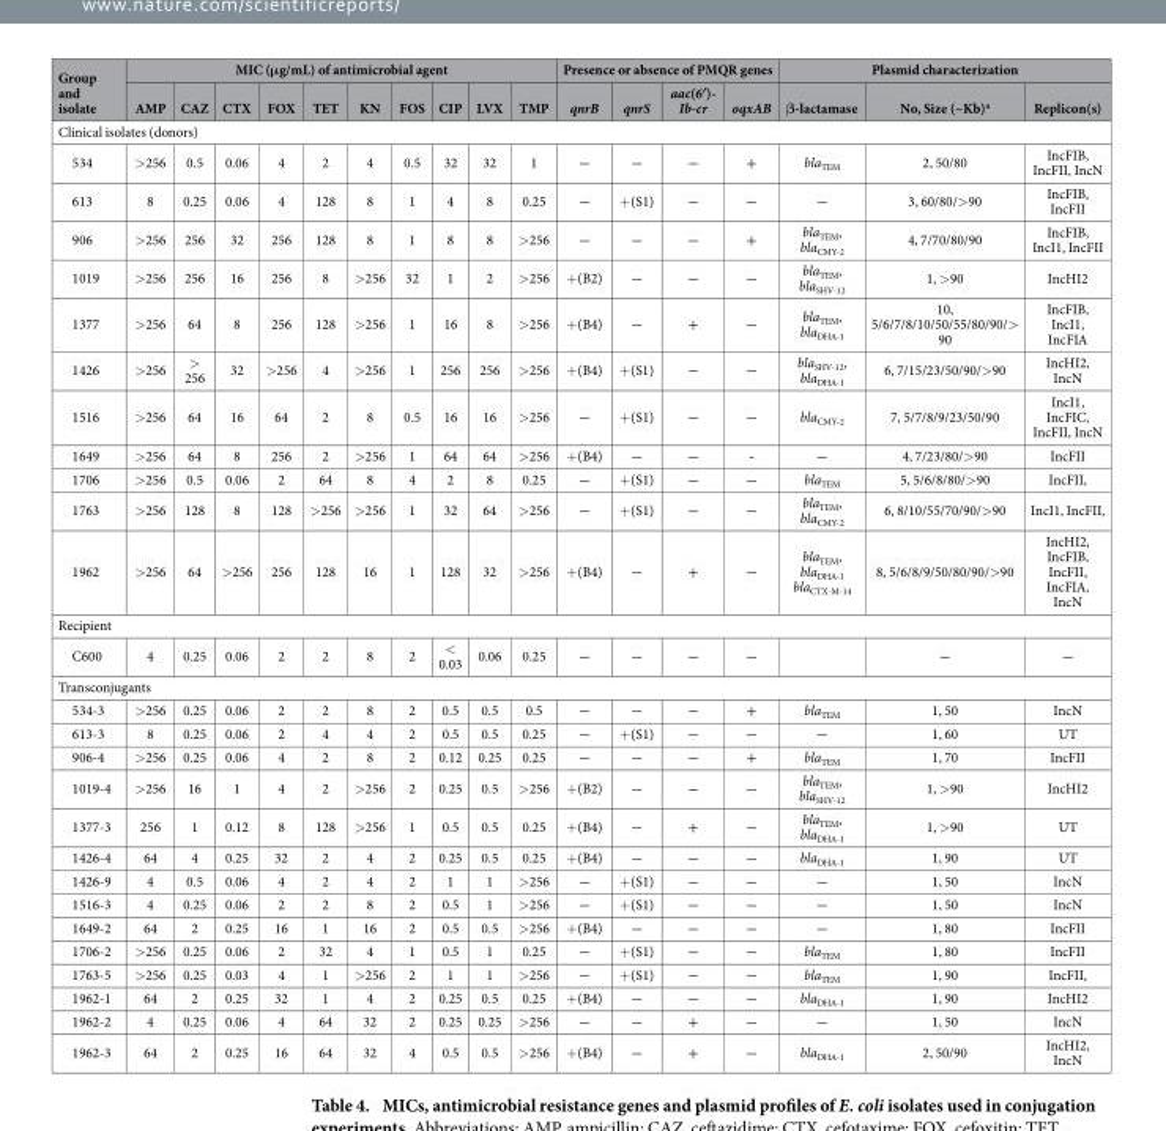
<table><thead><tr><td rowspan="2">Group and isolate</td><td colspan="10">MIC (μg/mL) of antimicrobial agent</td><td colspan="4">Presence or absence of PMQR genes</td><td colspan="3">Plasmid characterization</td></tr><tr><td>AMP</td><td>CAZ</td><td>CTX</td><td>FOX</td><td>TET</td><td>KN</td><td>FOS</td><td>CIP</td><td>LVX</td><td>TMP</td><td>qnrB</td><td>qnrS</td><td>aac(6′)- Ib-cr</td><td>oqxAB</td><td>β-lactamase</td><td>No, Size (~Kb)<sup>a</sup></td><td>Replicon(s)</td></tr></thead><tbody><tr><td colspan="18">Clinical isolates (donors)</td></tr><tr><td>534</td><td>&gt; 256</td><td>0.5</td><td>0.06</td><td>4</td><td>2</td><td>4</td><td>0.5</td><td>32</td><td>32</td><td>1</td><td>−</td><td>−</td><td>−</td><td>+</td><td>bla<sub>TEM</sub></td><td>2, 50/80</td><td>IncFIB, IncFII, IncN</td></tr><tr><td>613</td><td>8</td><td>0.25</td><td>0.06</td><td>4</td><td>128</td><td>8</td><td>1</td><td>4</td><td>8</td><td>0.25</td><td>−</td><td>+(S1)</td><td>−</td><td>−</td><td>−</td><td>3, 60/80/&gt; 90</td><td>IncFIB, IncFII</td></tr><tr><td>906</td><td>&gt; 256</td><td>256</td><td>32</td><td>256</td><td>128</td><td>8</td><td>1</td><td>8</td><td>8</td><td>&gt; 256</td><td>−</td><td>−</td><td>−</td><td>+</td><td>bla<sub>TEM</sub>, bla<sub>CMY-2</sub></td><td>4, 7/70/80/90</td><td>IncFIB, IncI1, IncFII</td></tr><tr><td>1019</td><td>&gt; 256</td><td>256</td><td>16</td><td>256</td><td>8</td><td>&gt; 256</td><td>32</td><td>1</td><td>2</td><td>&gt; 256</td><td>+(B2)</td><td>−</td><td>−</td><td>−</td><td>bla<sub>TEM</sub>, bla<sub>SHV-12</sub></td><td>1, &gt; 90</td><td>IncHI2</td></tr><tr><td>1377</td><td>&gt; 256</td><td>64</td><td>8</td><td>256</td><td>128</td><td>&gt; 256</td><td>1</td><td>16</td><td>8</td><td>&gt; 256</td><td>+(B4)</td><td>−</td><td>+</td><td>−</td><td>bla<sub>TEM</sub>, bla<sub>DHA-1</sub></td><td>10, 5/6/7/8/10/50/55/80/90/&gt; 90</td><td>IncFIB, IncI1, IncFIA</td></tr><tr><td>1426</td><td>&gt; 256</td><td>&gt; 256</td><td>32</td><td>&gt; 256</td><td>4</td><td>&gt; 256</td><td>1</td><td>256</td><td>256</td><td>&gt; 256</td><td>+(B4)</td><td>+(S1)</td><td>−</td><td>−</td><td>bla<sub>SHV-12</sub>, bla<sub>DHA-1</sub></td><td>6, 7/15/23/50/90/&gt; 90</td><td>IncHI2, IncN</td></tr><tr><td>1516</td><td>&gt; 256</td><td>64</td><td>16</td><td>64</td><td>2</td><td>8</td><td>0.5</td><td>16</td><td>16</td><td>&gt; 256</td><td>−</td><td>+(S1)</td><td>−</td><td>−</td><td>bla<sub>CMY-2</sub></td><td>7, 5/7/8/9/23/50/90</td><td>IncI1, IncFIC, IncFII, IncN</td></tr><tr><td>1649</td><td>&gt; 256</td><td>64</td><td>8</td><td>256</td><td>2</td><td>&gt; 256</td><td>1</td><td>64</td><td>64</td><td>&gt; 256</td><td>+(B4)</td><td>−</td><td>−</td><td>-</td><td>−</td><td>4, 7/23/80/&gt; 90</td><td>IncFII</td></tr><tr><td>1706</td><td>&gt; 256</td><td>0.5</td><td>0.06</td><td>2</td><td>64</td><td>8</td><td>4</td><td>2</td><td>8</td><td>0.25</td><td>−</td><td>+(S1)</td><td>−</td><td>−</td><td>bla<sub>TEM</sub></td><td>5, 5/6/8/80/&gt; 90</td><td>IncFII,</td></tr><tr><td>1763</td><td>&gt; 256</td><td>128</td><td>8</td><td>128</td><td>&gt; 256</td><td>&gt; 256</td><td>1</td><td>32</td><td>64</td><td>&gt; 256</td><td>−</td><td>+(S1)</td><td>−</td><td>−</td><td>bla<sub>TEM</sub>, bla<sub>CMY-2</sub></td><td>6, 8/10/55/70/90/&gt; 90</td><td>IncI1, IncFII,</td></tr><tr><td>1962</td><td>&gt; 256</td><td>64</td><td>&gt; 256</td><td>256</td><td>128</td><td>16</td><td>1</td><td>128</td><td>32</td><td>&gt; 256</td><td>+(B4)</td><td>−</td><td>+</td><td>−</td><td>bla<sub>TEM</sub>, bla<sub>DHA-1</sub> bla<sub>CTX-M-14</sub></td><td>8, 5/6/8/9/50/80/90/&gt; 90</td><td>IncHI2, IncFIB, IncFII, IncFIA, IncN</td></tr><tr><td colspan="18">Recipient</td></tr><tr><td>C600</td><td>4</td><td>0.25</td><td>0.06</td><td>2</td><td>2</td><td>8</td><td>2</td><td>&lt; 0.03</td><td>0.06</td><td>0.25</td><td>−</td><td>−</td><td>−</td><td>−</td><td></td><td>−</td><td>−</td></tr><tr><td colspan="18">Transconjugants</td></tr><tr><td>534-3</td><td>&gt; 256</td><td>0.25</td><td>0.06</td><td>2</td><td>2</td><td>8</td><td>2</td><td>0.5</td><td>0.5</td><td>0.5</td><td>−</td><td>−</td><td>−</td><td>+</td><td>bla<sub>TEM</sub></td><td>1, 50</td><td>IncN</td></tr><tr><td>613-3</td><td>8</td><td>0.25</td><td>0.06</td><td>2</td><td>4</td><td>4</td><td>2</td><td>0.5</td><td>0.5</td><td>0.25</td><td>−</td><td>+(S1)</td><td>−</td><td>−</td><td>−</td><td>1, 60</td><td>UT</td></tr><tr><td>906-4</td><td>&gt; 256</td><td>0.25</td><td>0.06</td><td>4</td><td>2</td><td>8</td><td>2</td><td>0.12</td><td>0.25</td><td>0.25</td><td>−</td><td>−</td><td>−</td><td>+</td><td>bla<sub>TEM</sub></td><td>1, 70</td><td>IncFII</td></tr><tr><td>1019-4</td><td>&gt; 256</td><td>16</td><td>1</td><td>4</td><td>2</td><td>&gt; 256</td><td>2</td><td>0.25</td><td>0.5</td><td>&gt; 256</td><td>+(B2)</td><td>−</td><td>−</td><td>−</td><td>bla<sub>TEM</sub>, bla<sub>SHV-12</sub></td><td>1, &gt; 90</td><td>IncHI2</td></tr><tr><td>1377-3</td><td>256</td><td>1</td><td>0.12</td><td>8</td><td>128</td><td>&gt; 256</td><td>1</td><td>0.5</td><td>0.5</td><td>0.25</td><td>+(B4)</td><td>−</td><td>+</td><td>−</td><td>bla<sub>TEM</sub>, bla<sub>DHA-1</sub></td><td>1, &gt; 90</td><td>UT</td></tr><tr><td>1426-4</td><td>64</td><td>4</td><td>0.25</td><td>32</td><td>2</td><td>4</td><td>2</td><td>0.25</td><td>0.5</td><td>0.25</td><td>+(B4)</td><td>−</td><td>−</td><td>−</td><td>bla<sub>DHA-1</sub></td><td>1, 90</td><td>UT</td></tr><tr><td>1426-9</td><td>4</td><td>0.5</td><td>0.06</td><td>4</td><td>2</td><td>4</td><td>2</td><td>1</td><td>1</td><td>&gt; 256</td><td>−</td><td>+(S1)</td><td>−</td><td>−</td><td>−</td><td>1, 50</td><td>IncN</td></tr><tr><td>1516-3</td><td>4</td><td>0.25</td><td>0.06</td><td>2</td><td>2</td><td>8</td><td>2</td><td>0.5</td><td>1</td><td>&gt; 256</td><td>−</td><td>+(S1)</td><td>−</td><td>−</td><td>−</td><td>1, 50</td><td>IncN</td></tr><tr><td>1649-2</td><td>64</td><td>2</td><td>0.25</td><td>16</td><td>1</td><td>16</td><td>2</td><td>0.5</td><td>0.5</td><td>&gt; 256</td><td>+(B4)</td><td>−</td><td>−</td><td>−</td><td>−</td><td>1, 80</td><td>IncFII</td></tr><tr><td>1706-2</td><td>&gt; 256</td><td>0.25</td><td>0.06</td><td>2</td><td>32</td><td>4</td><td>1</td><td>0.5</td><td>1</td><td>0.25</td><td>−</td><td>+(S1)</td><td>−</td><td>−</td><td>bla<sub>TEM</sub></td><td>1, 80</td><td>IncFII</td></tr><tr><td>1763-5</td><td>&gt; 256</td><td>0.25</td><td>0.03</td><td>4</td><td>1</td><td>&gt; 256</td><td>2</td><td>1</td><td>1</td><td>&gt; 256</td><td>−</td><td>+(S1)</td><td>−</td><td>−</td><td>bla<sub>TEM</sub></td><td>1, 90</td><td>IncFII,</td></tr><tr><td>1962-1</td><td>64</td><td>2</td><td>0.25</td><td>32</td><td>1</td><td>4</td><td>2</td><td>0.25</td><td>0.5</td><td>0.25</td><td>+(B4)</td><td>−</td><td>−</td><td>−</td><td>bla<sub>DHA-1</sub></td><td>1, 90</td><td>IncHI2</td></tr><tr><td>1962-2</td><td>4</td><td>0.25</td><td>0.06</td><td>4</td><td>64</td><td>32</td><td>2</td><td>0.25</td><td>0.25</td><td>&gt; 256</td><td>−</td><td>−</td><td>+</td><td>−</td><td>−</td><td>1, 50</td><td>IncN</td></tr><tr><td>1962-3</td><td>64</td><td>2</td><td>0.25</td><td>16</td><td>64</td><td>32</td><td>4</td><td>0.5</td><td>0.5</td><td>&gt; 256</td><td>+(B4)</td><td>−</td><td>+</td><td>−</td><td>bla<sub>DHA-1</sub></td><td>2, 50/90</td><td>IncHI2, IncN</td></tr></tbody></table>